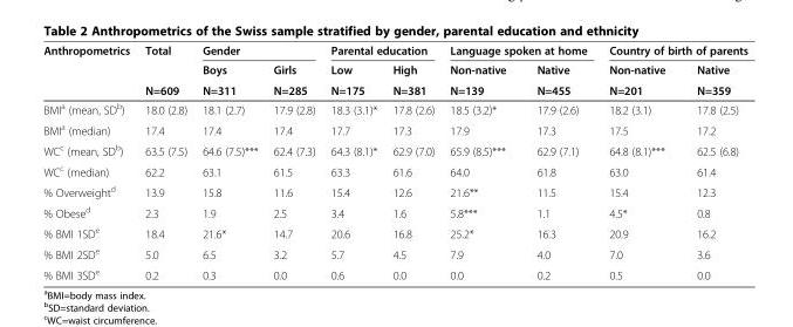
<table><thead><tr><td rowspan="2">Anthropometrics</td><td rowspan="2">Total</td><td rowspan="2">Gender Boys</td><td rowspan="2">Girls</td><td colspan="2">Parental education</td><td colspan="2">Language spoken at home</td><td colspan="2">Country of birth of parents</td></tr><tr><td>Low</td><td>High</td><td>Non-native</td><td>Native</td><td>Non-native</td><td>Native</td></tr></thead><tbody><tr><td></td><td>N=609</td><td>N=311</td><td>N=285</td><td>N=175</td><td>N=381</td><td>N=139</td><td>N=455</td><td>N=201</td><td>N=359</td></tr><tr><td>BMI<sup>a</sup> (mean, SD<sup>b</sup>)</td><td>18.0 (2.8)</td><td>18.1 (2.7)</td><td>17.9 (2.8)</td><td>18.3 (3.1)*</td><td>17.8 (2.6)</td><td>18.5 (3.2)*</td><td>17.9 (2.6)</td><td>18.2 (3.1)</td><td>17.8 (2.5)</td></tr><tr><td>BMI<sup>a</sup> (median)</td><td>17.4</td><td>17.4</td><td>17.4</td><td>17.7</td><td>17.3</td><td>17.9</td><td>17.3</td><td>17.5</td><td>17.2</td></tr><tr><td>WC<sup>c</sup> (mean, SD<sup>b</sup>)</td><td>63.5 (7.5)</td><td>64.6 (7.5)***</td><td>62.4 (7.3)</td><td>64.3 (8.1)*</td><td>62.9 (7.0)</td><td>65.9 (8.5)***</td><td>62.9 (7.1)</td><td>64.8 (8.1)***</td><td>62.5 (6.8)</td></tr><tr><td>WC<sup>c</sup> (median)</td><td>62.2</td><td>63.1</td><td>61.5</td><td>63.3</td><td>61.6</td><td>64.0</td><td>61.8</td><td>63.0</td><td>61.4</td></tr><tr><td>% Overweight<sup>d</sup></td><td>13.9</td><td>15.8</td><td>11.6</td><td>15.4</td><td>12.6</td><td>21.6**</td><td>11.5</td><td>15.4</td><td>12.3</td></tr><tr><td>% Obese<sup>d</sup></td><td>2.3</td><td>1.9</td><td>2.5</td><td>3.4</td><td>1.6</td><td>5.8***</td><td>1.1</td><td>4.5*</td><td>0.8</td></tr><tr><td>% BMI 1SD<sup>e</sup></td><td>18.4</td><td>21.6*</td><td>14.7</td><td>20.6</td><td>16.8</td><td>25.2*</td><td>16.3</td><td>20.9</td><td>16.2</td></tr><tr><td>% BMI 2SD<sup>e</sup></td><td>5.0</td><td>6.5</td><td>3.2</td><td>5.7</td><td>4.5</td><td>7.9</td><td>4.0</td><td>7.0</td><td>3.6</td></tr><tr><td>% BMI 3SD<sup>e</sup></td><td>0.2</td><td>0.3</td><td>0.0</td><td>0.6</td><td>0.0</td><td>0.0</td><td>0.2</td><td>0.5</td><td>0.0</td></tr></tbody></table>